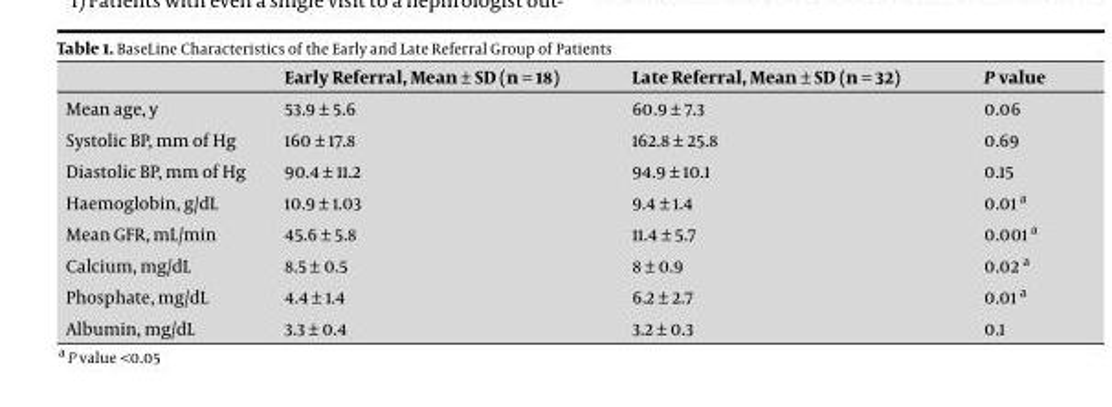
<table><thead><tr><td></td><td>Early Referral, Mean ± SD (n = 18)</td><td>Late Referral, Mean ± SD (n = 32)</td><td>P value</td></tr></thead><tbody><tr><td>Mean age, y</td><td>53.9 ± 5.6</td><td>60.9 ± 7.3</td><td>0.06</td></tr><tr><td>Systolic BP, mm of hg</td><td>160 ± 17.8</td><td>162.8 ± 25.8</td><td>0.69</td></tr><tr><td>Diastolic BP, mm of hg</td><td>90.4 ± 11.2</td><td>94.9 ± 10.1</td><td>0.15</td></tr><tr><td>haemoglobin, g/dl</td><td>10.9 ± 1.03</td><td>9.4 ± 1.4</td><td>0.01 a</td></tr><tr><td>Mean GFR, ml/min</td><td>45.6 ± 5.8</td><td>11.4 ± 5.7</td><td>0.001 a</td></tr><tr><td>Calcium, mg/dl</td><td>8.5 ± 0.5</td><td>8 ± 0.9</td><td>0.02 a</td></tr><tr><td>Phosphate, mg/dl</td><td>4.4 ± 1.4</td><td>6.2 ± 2.7</td><td>0.01 a</td></tr><tr><td>Albumin, mg/dl</td><td>3.3 ± 0.4</td><td>3.2 ± 0.3</td><td>0.1</td></tr></tbody></table>